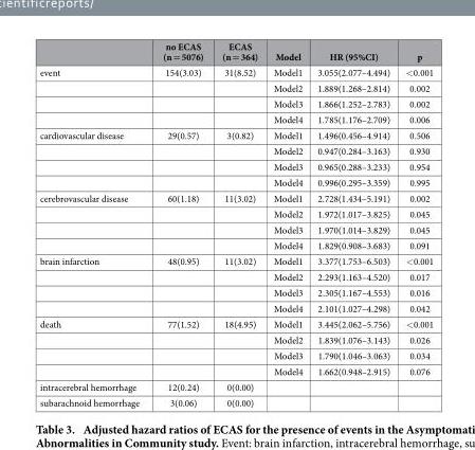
<table><thead><tr><td></td><td>no ECAS (n = 5076)</td><td>ECAS (n = 364)</td><td>Model</td><td>HR (95%CI)</td><td>p</td></tr></thead><tbody><tr><td rowspan="4">event</td><td>154(3.03)</td><td>31(8.52)</td><td>Model1</td><td>3.055(2.077–4.494)</td><td>&lt; 0.001</td></tr><tr><td></td><td></td><td>Model2</td><td>1.889(1.268–2.814)</td><td>0.002</td></tr><tr><td></td><td></td><td>Model3</td><td>1.866(1.252–2.783)</td><td>0.002</td></tr><tr><td></td><td></td><td>Model4</td><td>1.785(1.176–2.709)</td><td>0.006</td></tr><tr><td rowspan="4">cardiovascular disease</td><td>29(0.57)</td><td>3(0.82)</td><td>Model1</td><td>1.496(0.456–4.914)</td><td>0.506</td></tr><tr><td></td><td></td><td>Model2</td><td>0.947(0.284–3.163)</td><td>0.930</td></tr><tr><td></td><td></td><td>Model3</td><td>0.965(0.288–3.233)</td><td>0.954</td></tr><tr><td></td><td></td><td>Model4</td><td>0.996(0.295–3.359)</td><td>0.995</td></tr><tr><td rowspan="4">cerebrovascular disease</td><td>60(1.18)</td><td>11(3.02)</td><td>Model1</td><td>2.728(1.434–5.191)</td><td>0.002</td></tr><tr><td></td><td></td><td>Model2</td><td>1.972(1.017–3.825)</td><td>0.045</td></tr><tr><td></td><td></td><td>Model3</td><td>1.970(1.014–3.829)</td><td>0.045</td></tr><tr><td></td><td></td><td>Model4</td><td>1.829(0.908–3.683)</td><td>0.091</td></tr><tr><td rowspan="4">brain infarction</td><td>48(0.95)</td><td>11(3.02)</td><td>Model1</td><td>3.377(1.753–6.503)</td><td>&lt; 0.001</td></tr><tr><td></td><td></td><td>Model2</td><td>2.293(1.163–4.520)</td><td>0.017</td></tr><tr><td></td><td></td><td>Model3</td><td>2.305(1.167–4.553)</td><td>0.016</td></tr><tr><td></td><td></td><td>Model4</td><td>2.101(1.027–4.298)</td><td>0.042</td></tr><tr><td rowspan="4">death</td><td>77(1.52)</td><td>18(4.95)</td><td>Model1</td><td>3.445(2.062–5.756)</td><td>&lt; 0.001</td></tr><tr><td></td><td></td><td>Model2</td><td>1.839(1.076–3.143)</td><td>0.026</td></tr><tr><td></td><td></td><td>Model3</td><td>1.790(1.046–3.063)</td><td>0.034</td></tr><tr><td></td><td></td><td>Model4</td><td>1.662(0.948–2.915)</td><td>0.076</td></tr><tr><td>intracerebral hemorrhage</td><td>12(0.24)</td><td>0(0.00)</td><td></td><td></td><td></td></tr><tr><td>subarachnoid hemorrhage</td><td>3(0.06)</td><td>0(0.00)</td><td></td><td></td><td></td></tr></tbody></table>